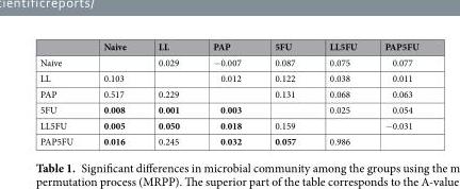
<table><thead><tr><td></td><td>Naive</td><td>LL</td><td>PAP</td><td>5FU</td><td>LL5FU</td><td>PAP5FU</td></tr></thead><tbody><tr><td>Naive</td><td></td><td>0.029</td><td>−0.007</td><td>0.087</td><td>0.075</td><td>0.077</td></tr><tr><td>LL</td><td>0.103</td><td></td><td>0.012</td><td>0.122</td><td>0.038</td><td>0.011</td></tr><tr><td>PAP</td><td>0.517</td><td>0.229</td><td></td><td>0.131</td><td>0.068</td><td>0.063</td></tr><tr><td>5FU</td><td>0.008</td><td>0.001</td><td>0.003</td><td></td><td>0.025</td><td>0.054</td></tr><tr><td>LL5FU</td><td>0.005</td><td>0.050</td><td>0.018</td><td>0.159</td><td></td><td>−0.031</td></tr><tr><td>PAP5FU</td><td>0.016</td><td>0.245</td><td>0.032</td><td>0.057</td><td>0.986</td><td></td></tr></tbody></table>